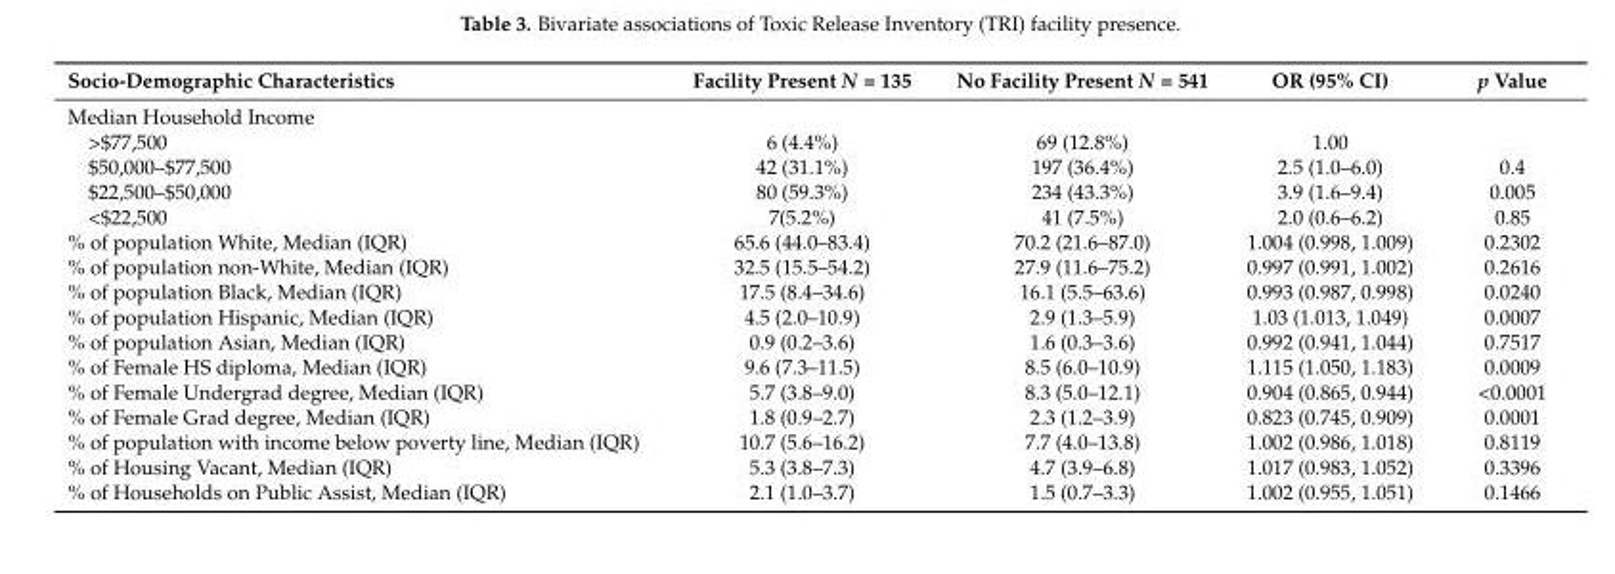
<table><thead><tr><td>Socio-Demographic Characteristics</td><td>Facility Present N = 135</td><td>No Facility Present N = 541</td><td>OR (95% CI)</td><td>p Value</td></tr></thead><tbody><tr><td colspan="5">Median Household Income</td></tr><tr><td>&gt;$77,500</td><td>6 (4.4%)</td><td>69 (12.8%)</td><td>1.00</td><td></td></tr><tr><td>$50,000–$77,500</td><td>42 (31.1%)</td><td>197 (36.4%)</td><td>2.5 (1.0–6.0)</td><td>0.4</td></tr><tr><td>$22,500–$50,000</td><td>80 (59.3%)</td><td>234 (43.3%)</td><td>3.9 (1.6–9.4)</td><td>0.005</td></tr><tr><td>&lt;$22,500</td><td>7(5.2%)</td><td>41 (7.5%)</td><td>2.0 (0.6–6.2)</td><td>0.85</td></tr><tr><td>% of population White, Median (IQR)</td><td>65.6 (44.0–83.4)</td><td>70.2 (21.6–87.0)</td><td>1.004 (0.998, 1.009)</td><td>0.2302</td></tr><tr><td>% of population non-White, Median (IQR)</td><td>32.5 (15.5–54.2)</td><td>27.9 (11.6–75.2)</td><td>0.997 (0.991, 1.002)</td><td>0.2616</td></tr><tr><td>% of population Black, Median (IQR)</td><td>17.5 (8.4–34.6)</td><td>16.1 (5.5–63.6)</td><td>0.993 (0.987, 0.998)</td><td>0.0240</td></tr><tr><td>% of population Hispanic, Median (IQR)</td><td>4.5 (2.0–10.9)</td><td>2.9 (1.3–5.9)</td><td>1.03 (1.013, 1.049)</td><td>0.0007</td></tr><tr><td>% of population Asian, Median (IQR)</td><td>0.9 (0.2–3.6)</td><td>1.6 (0.3–3.6)</td><td>0.992 (0.941, 1.044)</td><td>0.7517</td></tr><tr><td>% of Female HS diploma, Median (IQR)</td><td>9.6 (7.3–11.5)</td><td>8.5 (6.0–10.9)</td><td>1.115 (1.050, 1.183)</td><td>0.0009</td></tr><tr><td>% of Female Undergrad degree, Median (IQR)</td><td>5.7 (3.8–9.0)</td><td>8.3 (5.0–12.1)</td><td>0.904 (0.865, 0.944)</td><td>&lt;0.0001</td></tr><tr><td>% of Female Grad degree, Median (IQR)</td><td>1.8 (0.9–2.7)</td><td>2.3 (1.2–3.9)</td><td>0.823 (0.745, 0.909)</td><td>0.0001</td></tr><tr><td>% of population with income below poverty line, Median (IQR)</td><td>10.7 (5.6–16.2)</td><td>7.7 (4.0–13.8)</td><td>1.002 (0.986, 1.018)</td><td>0.8119</td></tr><tr><td>% of Housing Vacant, Median (IQR)</td><td>5.3 (3.8–7.3)</td><td>4.7 (3.9–6.8)</td><td>1.017 (0.983, 1.052)</td><td>0.3396</td></tr><tr><td>% of Households on Public Assist, Median (IQR)</td><td>2.1 (1.0–3.7)</td><td>1.5 (0.7–3.3)</td><td>1.002 (0.955, 1.051)</td><td>0.1466</td></tr></tbody></table>